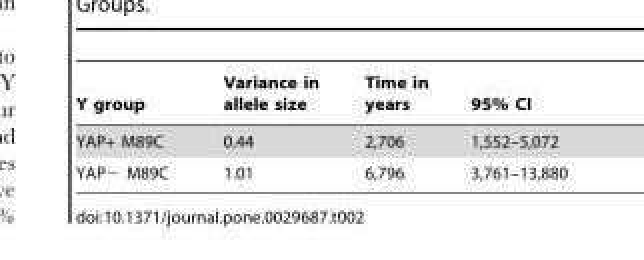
<table><thead><tr><td>Y group</td><td>Variance in allele size</td><td>Time in years</td><td>95% CI</td></tr></thead><tbody><tr><td>YAP+ M89C</td><td>0.44</td><td>2,706</td><td>1,552–5,072</td></tr><tr><td>YAP− M89C</td><td>1.01</td><td>6,796</td><td>3,761–13,880</td></tr></tbody></table>